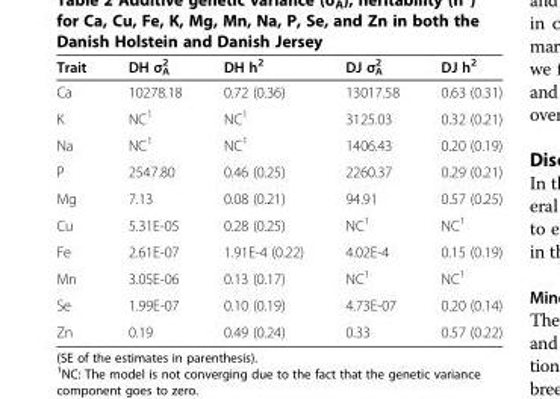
<table><thead><tr><td>Trait</td><td>DH σ<sup>2</sup> <sub>A</sub></td><td>DH h<sup>2</sup></td><td>DJ σ<sup>2</sup> <sub>A</sub></td><td>DJ h<sup>2</sup></td></tr></thead><tbody><tr><td>Ca</td><td>10278.18</td><td>0.72 (0.36)</td><td>13017.58</td><td>0.63 (0.31)</td></tr><tr><td>K</td><td>NC<sup>1</sup></td><td>NC<sup>1</sup></td><td>3125.03</td><td>0.32 (0.21)</td></tr><tr><td>Na</td><td>NC<sup>1</sup></td><td>NC<sup>1</sup></td><td>1406.43</td><td>0.20 (0.19)</td></tr><tr><td>P</td><td>2547.80</td><td>0.46 (0.25)</td><td>2260.37</td><td>0.29 (0.21)</td></tr><tr><td>Mg</td><td>7.13</td><td>0.08 (0.21)</td><td>94.91</td><td>0.57 (0.25)</td></tr><tr><td>Cu</td><td>5.31E-05</td><td>0.28 (0.25)</td><td>NC<sup>1</sup></td><td>NC<sup>1</sup></td></tr><tr><td>Fe</td><td>2.61E-07</td><td>1.91E-4 (0.22)</td><td>4.02E-4</td><td>0.15 (0.19)</td></tr><tr><td>Mn</td><td>3.05E-06</td><td>0.13 (0.17)</td><td>NC<sup>1</sup></td><td>NC<sup>1</sup></td></tr><tr><td>Se</td><td>1.99E-07</td><td>0.10 (0.19)</td><td>4.73E-07</td><td>0.20 (0.14)</td></tr><tr><td>Zn</td><td>0.19</td><td>0.49 (0.24)</td><td>0.33</td><td>0.57 (0.22)</td></tr></tbody></table>